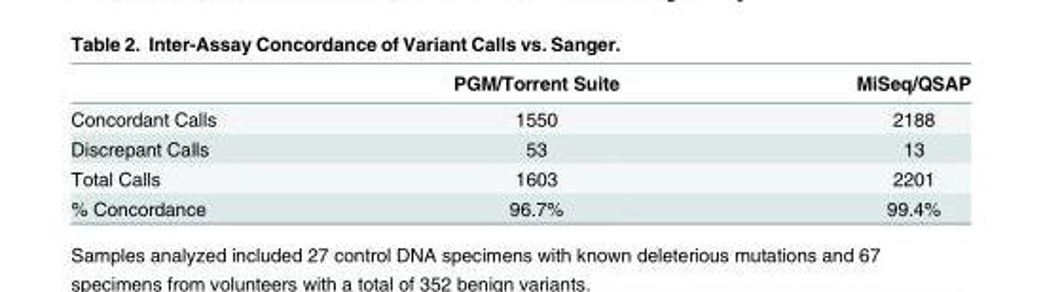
<table><thead><tr><td></td><td>PGM/Torrent Suite</td><td>MiSeq/QSAP</td></tr></thead><tbody><tr><td>Concordant Calls</td><td>1550</td><td>2188</td></tr><tr><td>Discrepant Calls</td><td>53</td><td>13</td></tr><tr><td>Total Calls</td><td>1603</td><td>2201</td></tr><tr><td>% Concordance</td><td>96.7%</td><td>99.4%</td></tr></tbody></table>